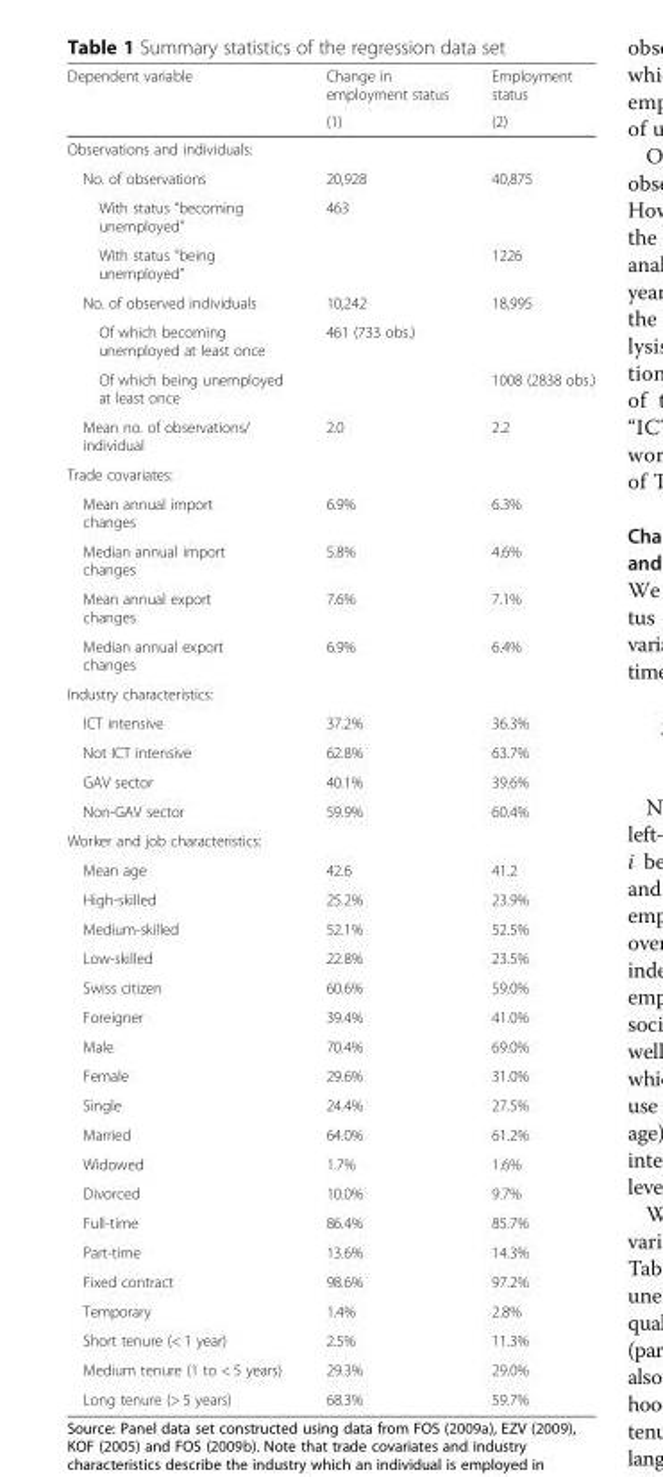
<table><thead><tr><td rowspan="2">Dependent variable</td><td rowspan="2">Change in employment status (1)</td><td rowspan="2">Employment status (2)</td></tr><tr></tr></thead><tbody><tr><td colspan="3">Observations and individuals:</td></tr><tr><td>No. of observations</td><td>20,928</td><td>40,875</td></tr><tr><td>With status “becoming unemployed”</td><td>463</td><td></td></tr><tr><td>With status “being unemployed”</td><td></td><td>1226</td></tr><tr><td>No. of observed individuals</td><td>10,242</td><td>18,995</td></tr><tr><td>Of which becoming unemployed at least once</td><td>461 (733 obs.)</td><td></td></tr><tr><td>Of which being unemployed at least once</td><td></td><td>1008 (2838 obs.)</td></tr><tr><td>Mean no. of observations/ individual</td><td>2.0</td><td>2.2</td></tr><tr><td colspan="3">Trade covariates:</td></tr><tr><td>Mean annual import changes</td><td>6.9%</td><td>6.3%</td></tr><tr><td>Median annual import changes</td><td>5.8%</td><td>4.6%</td></tr><tr><td>Mean annual export changes</td><td>7.6%</td><td>7.1%</td></tr><tr><td>Median annual export changes</td><td>6.9%</td><td>6.4%</td></tr><tr><td colspan="3">Industry characteristics:</td></tr><tr><td>ICT intensive</td><td>37.2%</td><td>36.3%</td></tr><tr><td>Not ICT intensive</td><td>62.8%</td><td>63.7%</td></tr><tr><td>GAV sector</td><td>40.1%</td><td>39.6%</td></tr><tr><td>Non-GAV sector</td><td>59.9%</td><td>60.4%</td></tr><tr><td colspan="3">Worker and job characteristics:</td></tr><tr><td>Mean age</td><td>42.6</td><td>41.2</td></tr><tr><td>High-skilled</td><td>25.2%</td><td>23.9%</td></tr><tr><td>Medium-skilled</td><td>52.1%</td><td>52.5%</td></tr><tr><td>Low-skilled</td><td>22.8%</td><td>23.5%</td></tr><tr><td>Swiss citizen</td><td>60.6%</td><td>59.0%</td></tr><tr><td>Foreigner</td><td>39.4%</td><td>41.0%</td></tr><tr><td>Male</td><td>70.4%</td><td>69.0%</td></tr><tr><td>Female</td><td>29.6%</td><td>31.0%</td></tr><tr><td>Single</td><td>24.4%</td><td>27.5%</td></tr><tr><td>Married</td><td>64.0%</td><td>61.2%</td></tr><tr><td>Widowed</td><td>1.7%</td><td>1.6%</td></tr><tr><td>Divorced</td><td>10.0%</td><td>9.7%</td></tr><tr><td>Full-time</td><td>86.4%</td><td>85.7%</td></tr><tr><td>Part-time</td><td>13.6%</td><td>14.3%</td></tr><tr><td>Fixed contract</td><td>98.6%</td><td>97.2%</td></tr><tr><td>Temporary</td><td>1.4%</td><td>2.8%</td></tr><tr><td>Short tenure (&lt; 1 year)</td><td>2.5%</td><td>11.3%</td></tr><tr><td>Medium tenure (1 to &lt; 5 years)</td><td>29.3%</td><td>29.0%</td></tr><tr><td>Long tenure (&gt; 5 years)</td><td>68.3%</td><td>59.7%</td></tr></tbody></table>